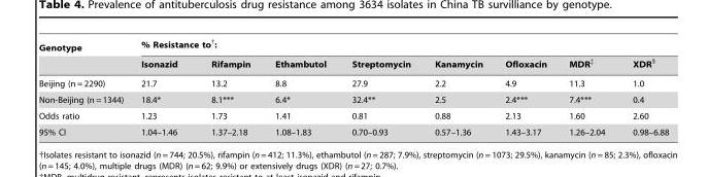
<table><thead><tr><td rowspan="2">Genotype</td><td colspan="8">% Resistance to†:</td></tr><tr><td>Isonazid</td><td>Rifampin</td><td>Ethambutol</td><td>Streptomycin</td><td>Kanamycin</td><td>Ofloxacin</td><td>MDR‡</td><td>XDR§</td></tr></thead><tbody><tr><td>Beijing (n = 2290)</td><td>21.7</td><td>13.2</td><td>8.8</td><td>27.9</td><td>2.2</td><td>4.9</td><td>11.3</td><td>1.0</td></tr><tr><td>Non-Beijing (n = 1344)</td><td>18.4*</td><td>8.1***</td><td>6.4*</td><td>32.4**</td><td>2.5</td><td>2.4***</td><td>7.4***</td><td>0.4</td></tr><tr><td>Odds ratio</td><td>1.23</td><td>1.73</td><td>1.41</td><td>0.81</td><td>0.88</td><td>2.13</td><td>1.60</td><td>2.60</td></tr><tr><td>95% CI</td><td>1.04–1.46</td><td>1.37–2.18</td><td>1.08–1.83</td><td>0.70–0.93</td><td>0.57–1.36</td><td>1.43–3.17</td><td>1.26–2.04</td><td>0.98–6.88</td></tr></tbody></table>